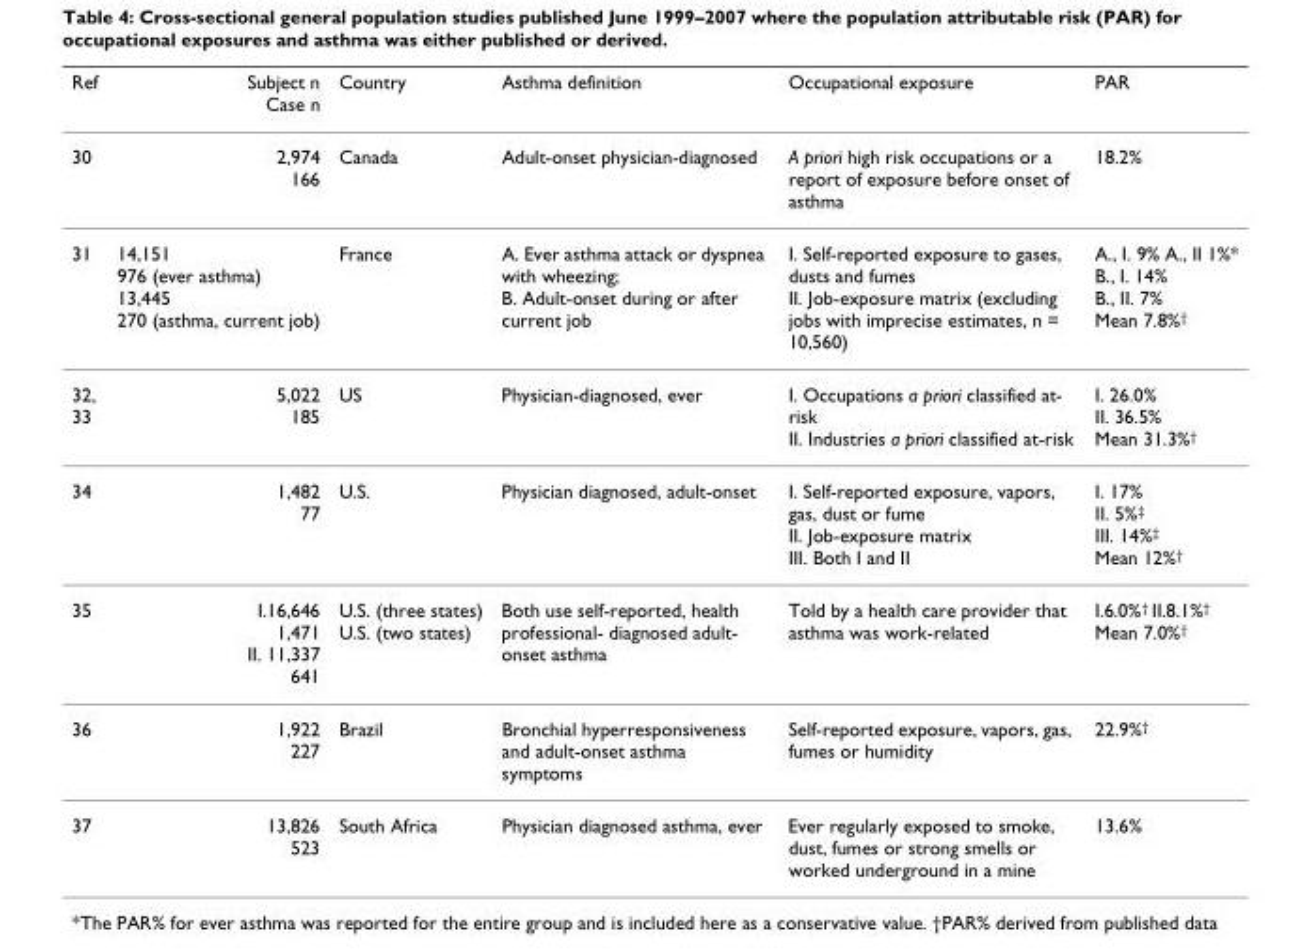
<table><thead><tr><td>Ref</td><td>Subject n Case n</td><td>Country</td><td>Asthma definition</td><td>Occupational exposure</td><td>PAR</td></tr></thead><tbody><tr><td>30</td><td>2,974 166</td><td>Canada</td><td>Adult-onset physician-diagnosed</td><td>A priori high risk occupations or a report of exposure before onset of asthma</td><td>18.2%</td></tr><tr><td>31</td><td>14,151 976 (ever asthma) 13,445 270 (asthma, current job)</td><td>France</td><td>A. Ever asthma attack or dyspnea with wheezing; B. Adult-onset during or after current job</td><td>I. Self-reported exposure to gases, dusts and fumes II. Job-exposure matrix (excluding jobs with imprecise estimates, n = 10,560)</td><td>A., I. 9% A., II 1%* B., I. 14% B., II. 7% Mean 7.8%<sup>†</sup></td></tr><tr><td>32, 33</td><td>5,022 185</td><td>US</td><td>Physician-diagnosed, ever</td><td>I. Occupations a priori classified at- risk II. Industries a priori classified at-risk</td><td>I. 26.0% II. 36.5% Mean 31.3%<sup>†</sup></td></tr><tr><td>34</td><td>1,482 77</td><td>U.S.</td><td>Physician diagnosed, adult-onset</td><td>I. Self-reported exposure, vapors, gas, dust or fume II. Job-exposure matrix III. Both I and II</td><td>I. 17% II. 5%<sup>‡</sup> III. 14%<sup>‡</sup> Mean 12%<sup>†</sup></td></tr><tr><td>35</td><td>I.16,646 1,471 II. 11,337 641</td><td>U.S. (three states) U.S. (two states)</td><td>Both use self-reported, health professional- diagnosed adult- onset asthma</td><td>Told by a health care provider that asthma was work-related</td><td>I.6.0%<sup>†</sup> II.8.1%<sup>†</sup> Mean 7.0%<sup>†</sup></td></tr><tr><td>36</td><td>1,922 227</td><td>Brazil</td><td>Bronchial hyperresponsiveness and adult-onset asthma symptoms</td><td>Self-reported exposure, vapors, gas, fumes or humidity</td><td>22.9%<sup>†</sup></td></tr><tr><td>37</td><td>13,826 523</td><td>South Africa</td><td>Physician diagnosed asthma, ever</td><td>Ever regularly exposed to smoke, dust, fumes or strong smells or worked underground in a mine</td><td>13.6%</td></tr></tbody></table>